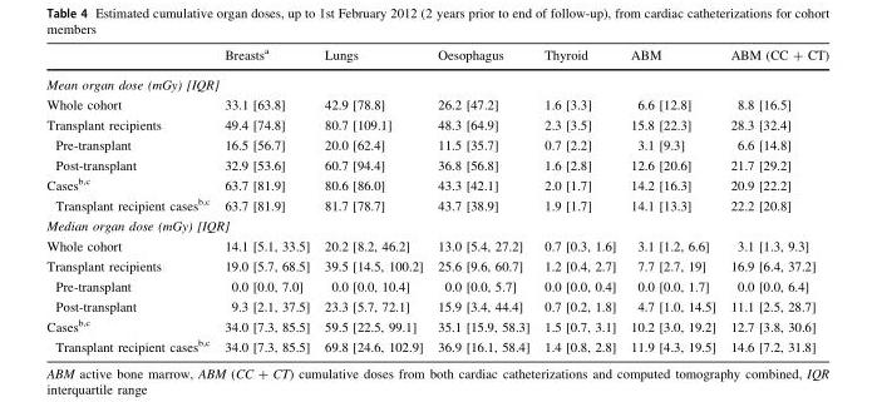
<table><thead><tr><td></td><td>Breasts<sup>a</sup></td><td>Lungs</td><td>Oesophagus</td><td>Thyroid</td><td>ABM</td><td>ABM (CC + CT)</td></tr></thead><tbody><tr><td colspan="7">Mean organ dose (mGy) [IQR]</td></tr><tr><td>Whole cohort</td><td>33.1 [63.8]</td><td>42.9 [78.8]</td><td>26.2 [47.2]</td><td>1.6 [3.3]</td><td>6.6 [12.8]</td><td>8.8 [16.5]</td></tr><tr><td>Transplant recipients</td><td>49.4 [74.8]</td><td>80.7 [109.1]</td><td>48.3 [64.9]</td><td>2.3 [3.5]</td><td>15.8 [22.3]</td><td>28.3 [32.4]</td></tr><tr><td>Pre-transplant</td><td>16.5 [56.7]</td><td>20.0 [62.4]</td><td>11.5 [35.7]</td><td>0.7 [2.2]</td><td>3.1 [9.3]</td><td>6.6 [14.8]</td></tr><tr><td>Post-transplant</td><td>32.9 [53.6]</td><td>60.7 [94.4]</td><td>36.8 [56.8]</td><td>1.6 [2.8]</td><td>12.6 [20.6]</td><td>21.7 [29.2]</td></tr><tr><td>Cases<sup>b,c</sup></td><td>63.7 [81.9]</td><td>80.6 [86.0]</td><td>43.3 [42.1]</td><td>2.0 [1.7]</td><td>14.2 [16.3]</td><td>20.9 [22.2]</td></tr><tr><td>Transplant recipient cases<sup>b,c</sup></td><td>63.7 [81.9]</td><td>81.7 [78.7]</td><td>43.7 [38.9]</td><td>1.9 [1.7]</td><td>14.1 [13.3]</td><td>22.2 [20.8]</td></tr><tr><td colspan="7">Median organ dose (mGy) [IQR]</td></tr><tr><td>Whole cohort</td><td>14.1 [5.1, 33.5]</td><td>20.2 [8.2, 46.2]</td><td>13.0 [5.4, 27.2]</td><td>0.7 [0.3, 1.6]</td><td>3.1 [1.2, 6.6]</td><td>3.1 [1.3, 9.3]</td></tr><tr><td>Transplant recipients</td><td>19.0 [5.7, 68.5]</td><td>39.5 [14.5, 100.2]</td><td>25.6 [9.6, 60.7]</td><td>1.2 [0.4, 2.7]</td><td>7.7 [2.7, 19]</td><td>16.9 [6.4, 37.2]</td></tr><tr><td>Pre-transplant</td><td>0.0 [0.0, 7.0]</td><td>0.0 [0.0, 10.4]</td><td>0.0 [0.0, 5.7]</td><td>0.0 [0.0, 0.4]</td><td>0.0 [0.0, 1.7]</td><td>0.0 [0.0, 6.4]</td></tr><tr><td>Post-transplant</td><td>9.3 [2.1, 37.5]</td><td>23.3 [5.7, 72.1]</td><td>15.9 [3.4, 44.4]</td><td>0.7 [0.2, 1.8]</td><td>4.7 [1.0, 14.5]</td><td>11.1 [2.5, 28.7]</td></tr><tr><td>Cases<sup>b,c</sup></td><td>34.0 [7.3, 85.5]</td><td>59.5 [22.5, 99.1]</td><td>35.1 [15.9, 58.3]</td><td>1.5 [0.7, 3.1]</td><td>10.2 [3.0, 19.2]</td><td>12.7 [3.8, 30.6]</td></tr><tr><td>Transplant recipient cases<sup>b,c</sup></td><td>34.0 [7.3, 85.5]</td><td>69.8 [24.6, 102.9]</td><td>36.9 [16.1, 58.4]</td><td>1.4 [0.8, 2.8]</td><td>11.9 [4.3, 19.5]</td><td>14.6 [7.2, 31.8]</td></tr></tbody></table>